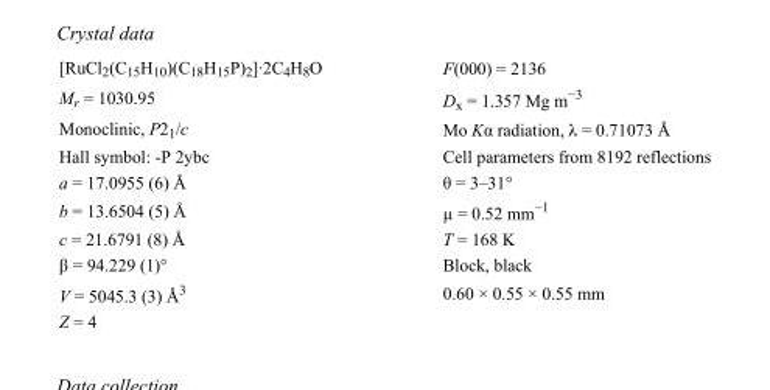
<table><tbody><tr><td>[RuCl<sub>2</sub>(C<sub>15</sub>H<sub>10</sub>)(C<sub>18</sub>H<sub>15</sub>P)<sub>2</sub>]·2C<sub>4</sub>H<sub>8</sub>O</td><td>F(000) = 2136</td></tr><tr><td>M<sub>r</sub> = 1030.95</td><td>D<sub>x</sub> = 1.357 Mg m<sup>−3</sup></td></tr><tr><td>Monoclinic, P2<sub>1</sub>/c</td><td>Mo Kα radiation, λ = 0.71073 Å</td></tr><tr><td>Hall symbol: -P 2ybc</td><td>Cell parameters from 8192 reflections</td></tr><tr><td>a = 17.0955 (6) Å</td><td>θ = 3–31°</td></tr><tr><td>b = 13.6504 (5) Å</td><td>µ = 0.52 mm<sup>−1</sup></td></tr><tr><td>c = 21.6791 (8) Å</td><td>T = 168 K</td></tr><tr><td>β = 94.229 (1)°</td><td>Block, black</td></tr><tr><td>V = 5045.3 (3) Å<sup>3</sup></td><td>0.60 × 0.55 × 0.55 mm</td></tr><tr><td>Z = 4</td><td></td></tr></tbody></table>